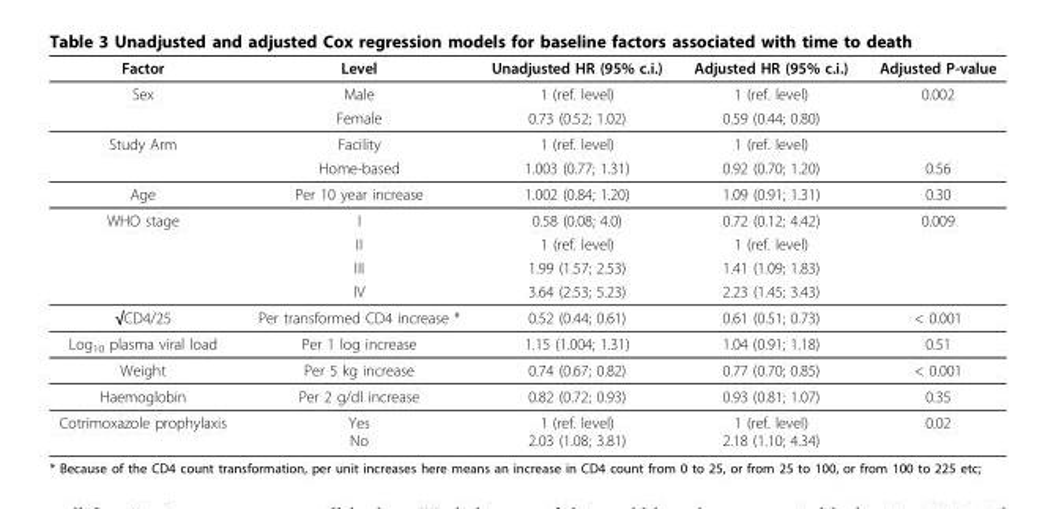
<table><thead><tr><td>Factor</td><td>Level</td><td>Unadjusted HR (95% c.i.)</td><td>Adjusted HR (95% c.i.)</td><td>Adjusted P-value</td></tr></thead><tbody><tr><td rowspan="2">Sex</td><td>Male</td><td>1 (ref. level)</td><td>1 (ref. level)</td><td>0.002</td></tr><tr><td>Female</td><td>0.73 (0.52; 1.02)</td><td>0.59 (0.44; 0.80)</td><td></td></tr><tr><td rowspan="2">Study Arm</td><td>Facility</td><td>1 (ref. level)</td><td>1 (ref. level)</td><td></td></tr><tr><td>Home-based</td><td>1.003 (0.77; 1.31)</td><td>0.92 (0.70; 1.20)</td><td>0.56</td></tr><tr><td>Age</td><td>Per 10 year increase</td><td>1.002 (0.84; 1.20)</td><td>1.09 (0.91; 1.31)</td><td>0.30</td></tr><tr><td rowspan="4">WHO stage</td><td>I</td><td>0.58 (0.08; 4.0)</td><td>0.72 (0.12; 4.42)</td><td>0.009</td></tr><tr><td>II</td><td>1 (ref. level)</td><td>1 (ref. level)</td><td></td></tr><tr><td>III</td><td>1.99 (1.57; 2.53)</td><td>1.41 (1.09; 1.83)</td><td></td></tr><tr><td>IV</td><td>3.64 (2.53; 5.23)</td><td>2.23 (1.45; 3.43)</td><td></td></tr><tr><td>√CD4/25</td><td>Per transformed CD4 increase *</td><td>0.52 (0.44; 0.61)</td><td>0.61 (0.51; 0.73)</td><td>&lt; 0.001</td></tr><tr><td>Log<sub>10</sub> plasma viral load</td><td>Per 1 log increase</td><td>1.15 (1.004; 1.31)</td><td>1.04 (0.91; 1.18)</td><td>0.51</td></tr><tr><td>Weight</td><td>Per 5 kg increase</td><td>0.74 (0.67; 0.82)</td><td>0.77 (0.70; 0.85)</td><td>&lt; 0.001</td></tr><tr><td>Haemoglobin</td><td>Per 2 g/dl increase</td><td>0.82 (0.72; 0.93)</td><td>0.93 (0.81; 1.07)</td><td>0.35</td></tr><tr><td>Cotrimoxazole prophylaxis</td><td>Yes No</td><td>1 (ref. level) 2.03 (1.08; 3.81)</td><td>1 (ref. level) 2.18 (1.10; 4.34)</td><td>0.02</td></tr></tbody></table>